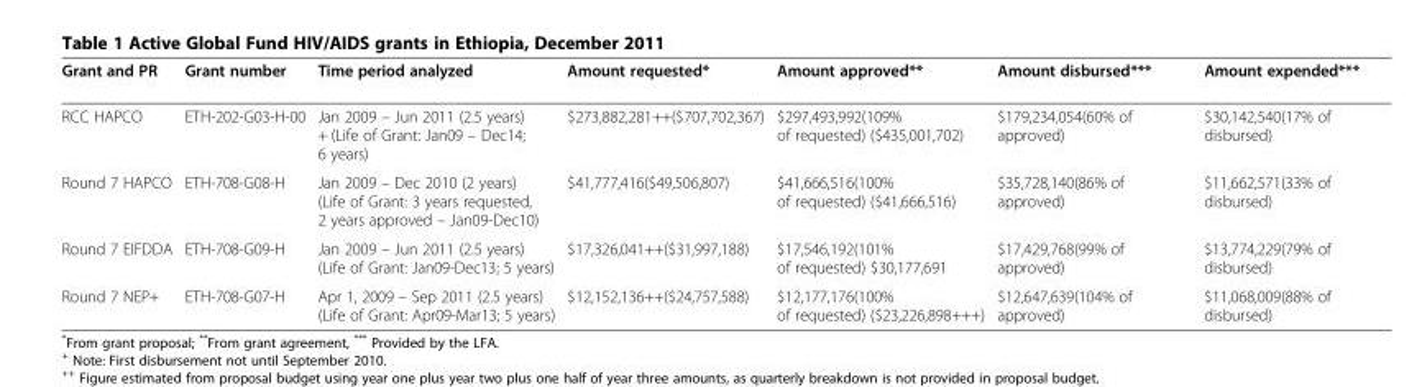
<table><thead><tr><td>Grant and PR</td><td>Grant number</td><td>Time period analyzed</td><td>Amount requested*</td><td>Amount approved**</td><td>Amount disbursed***</td><td>Amount expended***</td></tr></thead><tbody><tr><td>RCC HAPCO</td><td>ETH-202-G03-H-00</td><td>Jan 2009 – Jun 2011 (2.5 years) + (Life of Grant: Jan09 – Dec14; 6 years)</td><td>$273,882,281++($707,702,367)</td><td>$297,493,992(109% of requested) ($435,001,702)</td><td>$179,234,054(60% of approved)</td><td>$30,142,540(17% of disbursed)</td></tr><tr><td>Round 7 HAPCO</td><td>ETH-708-G08-H</td><td>Jan 2009 – Dec 2010 (2 years) (Life of Grant: 3 years requested, 2 years approved – Jan09-Dec10)</td><td>$41,777,416($49,506,807)</td><td>$41,666,516(100% of requested) ($41,666,516)</td><td>$35,728,140(86% of approved)</td><td>$11,662,571(33% of disbursed)</td></tr><tr><td>Round 7 EIFDDA</td><td>ETH-708-G09-H</td><td>Jan 2009 – Jun 2011 (2.5 years) (Life of Grant: Jan09-Dec13; 5 years)</td><td>$17,326,041++($31,997,188)</td><td>$17,546,192(101% of requested) $30,177,691</td><td>$17,429,768(99% of approved)</td><td>$13,774,229(79% of disbursed)</td></tr><tr><td>Round 7 NEP+</td><td>ETH-708-G07-H</td><td>Apr 1, 2009 – Sep 2011 (2.5 years) (Life of Grant: Apr09-Mar13; 5 years)</td><td>$12,152,136++($24,757,588)</td><td>$12,177,176(100% of requested) ($23,226,898+++)</td><td>$12,647,639(104% of approved)</td><td>$11,068,009(88% of disbursed)</td></tr></tbody></table>